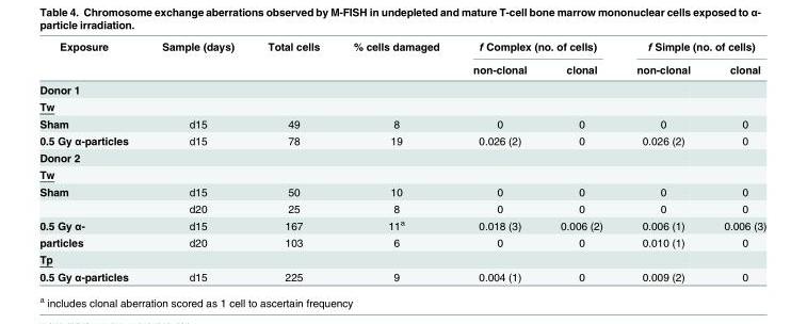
<table><thead><tr><td rowspan="2">Exposure</td><td rowspan="2">Sample (days)</td><td rowspan="2">Total cells</td><td rowspan="2">% cells damaged</td><td colspan="2">f Complex (no. of cells)</td><td colspan="2">f Simple (no. of cells)</td></tr><tr><td>non-clonal</td><td>clonal</td><td>non-clonal</td><td>clonal</td></tr></thead><tbody><tr><td colspan="8">Donor 1</td></tr><tr><td colspan="8">Tw</td></tr><tr><td>Sham</td><td>d15</td><td>49</td><td>8</td><td>0</td><td>0</td><td>0</td><td>0</td></tr><tr><td>0.5 Gy α-particles</td><td>d15</td><td>78</td><td>19</td><td>0.026 (2)</td><td>0</td><td>0.026 (2)</td><td>0</td></tr><tr><td colspan="8">Donor 2</td></tr><tr><td colspan="8">Tw</td></tr><tr><td rowspan="2">Sham</td><td>d15</td><td>50</td><td>10</td><td>0</td><td>0</td><td>0</td><td>0</td></tr><tr><td>d20</td><td>25</td><td>8</td><td>0</td><td>0</td><td>0</td><td>0</td></tr><tr><td>0.5 Gy α-</td><td>d15</td><td>167</td><td>11<sup>a</sup></td><td>0.018 (3)</td><td>0.006 (2)</td><td>0.006 (1)</td><td>0.006 (3)</td></tr><tr><td>particles</td><td>d20</td><td>103</td><td>6</td><td>0</td><td>0</td><td>0.010 (1)</td><td>0</td></tr><tr><td colspan="8">Tp</td></tr><tr><td>0.5 Gy α-particles</td><td>d15</td><td>225</td><td>9</td><td>0.004 (1)</td><td>0</td><td>0.009 (2)</td><td>0</td></tr></tbody></table>